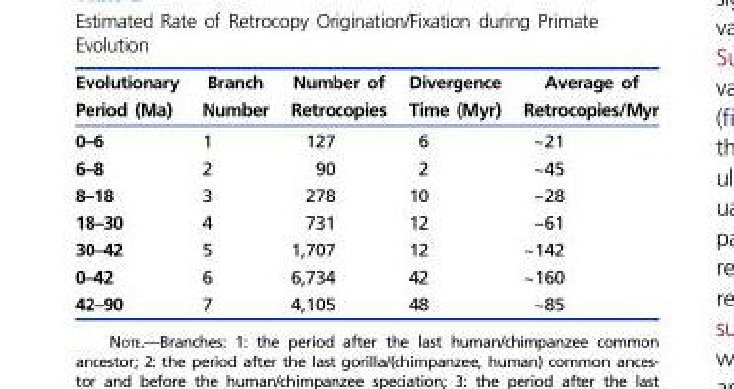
<table><thead><tr><td>Evolutionary Period (Ma)</td><td>Branch Number</td><td>Number of Retrocopies</td><td>Divergence Time (Myr)</td><td>Average of Retrocopies/Myr</td></tr></thead><tbody><tr><td>0–6</td><td>1</td><td>127</td><td>6</td><td>~21</td></tr><tr><td>6–8</td><td>2</td><td>90</td><td>2</td><td>~45</td></tr><tr><td>8–18</td><td>3</td><td>278</td><td>10</td><td>~28</td></tr><tr><td>18–30</td><td>4</td><td>731</td><td>12</td><td>~61</td></tr><tr><td>30–42</td><td>5</td><td>1,707</td><td>12</td><td>~142</td></tr><tr><td>0–42</td><td>6</td><td>6,734</td><td>42</td><td>~160</td></tr><tr><td>42–90</td><td>7</td><td>4,105</td><td>48</td><td>~85</td></tr></tbody></table>